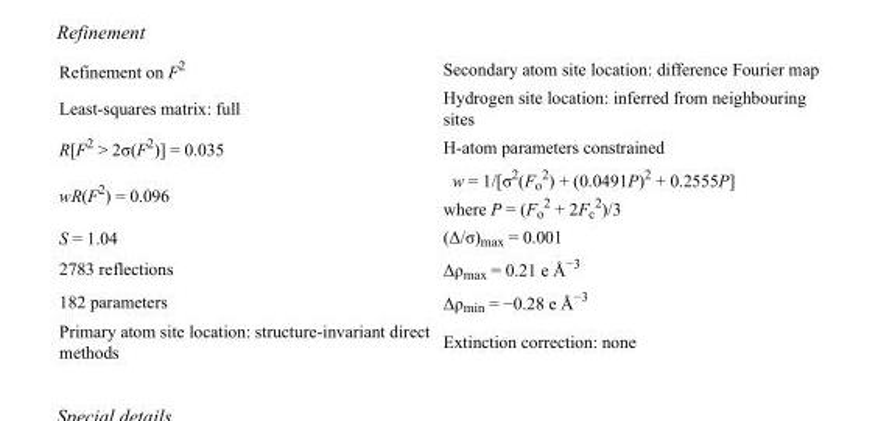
<table><tbody><tr><td>Refinement on F<sup>2</sup></td><td>Secondary atom site location: difference Fourier map</td></tr><tr><td>Least-squares matrix: full</td><td>Hydrogen site location: inferred from neighbouring sites</td></tr><tr><td>R[F<sup>2</sup> &gt; 2σ(F<sup>2</sup>)] = 0.035</td><td>H-atom parameters constrained</td></tr><tr><td>wR(F<sup>2</sup>) = 0.096</td><td>w = 1/[σ<sup>2</sup>(F<sub>o</sub> <sup>2</sup>) + (0.0491P)<sup>2</sup> + 0.2555P] where P = (F<sub>o</sub> <sup>2</sup> + 2F<sub>c</sub> <sup>2</sup>)/3</td></tr><tr><td>S = 1.04</td><td>(Δ/σ)<sub>max</sub> = 0.001</td></tr><tr><td>2783 reflections</td><td>Δρ<sub>max</sub> = 0.21 e Å<sup>−3</sup></td></tr><tr><td>182 parameters</td><td>Δρ<sub>min</sub> = −0.28 e Å<sup>−3</sup></td></tr><tr><td>Primary atom site location: structure-invariant direct methods</td><td>Extinction correction: none</td></tr></tbody></table>